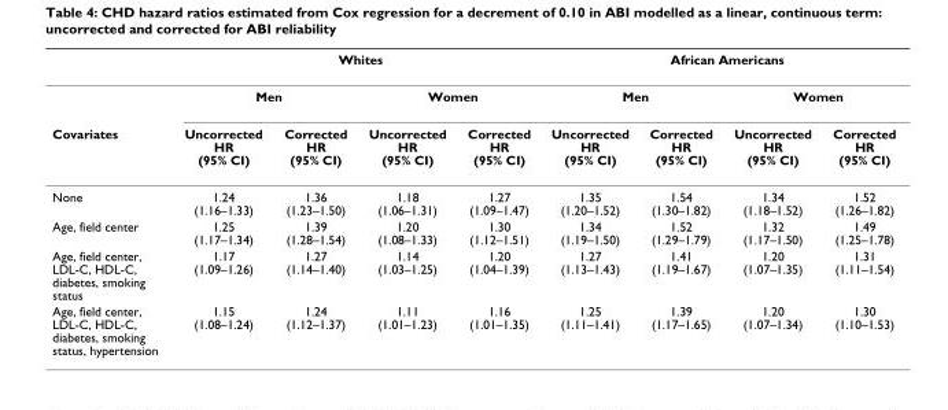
<table><thead><tr><td rowspan="3">Covariates</td><td colspan="4">Whites</td><td colspan="4">African Americans</td></tr><tr><td colspan="2">Men</td><td colspan="2">Women</td><td colspan="2">Men</td><td colspan="2">Women</td></tr><tr><td>Uncorrected HR (95% CI)</td><td>Corrected HR (95% CI)</td><td>Uncorrected HR (95% CI)</td><td>Corrected HR (95% CI)</td><td>Uncorrected HR (95% CI)</td><td>Corrected HR (95% CI)</td><td>Uncorrected HR (95% CI)</td><td>Corrected HR (95% CI)</td></tr></thead><tbody><tr><td>None</td><td>1.24 (1.16–1.33)</td><td>1.36 (1.23–1.50)</td><td>1.18 (1.06–1.31)</td><td>1.27 (1.09–1.47)</td><td>1.35 (1.20–1.52)</td><td>1.54 (1.30–1.82)</td><td>1.34 (1.18–1.52)</td><td>1.52 (1.26–1.82)</td></tr><tr><td>Age, field center</td><td>1.25 (1.17–1.34)</td><td>1.39 (1.28–1.54)</td><td>1.20 (1.08–1.33)</td><td>1.30 (1.12–1.51)</td><td>1.34 (1.19–1.50)</td><td>1.52 (1.29–1.79)</td><td>1.32 (1.17–1.50)</td><td>1.49 (1.25–1.78)</td></tr><tr><td>Age, field center, LDL-C, HDL-C, diabetes, smoking status</td><td>1.17 (1.09–1.26)</td><td>1.27 (1.14–1.40)</td><td>1.14 (1.03–1.25)</td><td>1.20 (1.04–1.39)</td><td>1.27 (1.13–1.43)</td><td>1.41 (1.19–1.67)</td><td>1.20 (1.07–1.35)</td><td>1.31 (1.11–1.54)</td></tr><tr><td>Age, field center, LDL-C, HDL-C, diabetes, smoking status, hypertension</td><td>1.15 (1.08–1.24)</td><td>1.24 (1.12–1.37)</td><td>1.11 (1.01–1.23)</td><td>1.16 (1.01–1.35)</td><td>1.25 (1.11–1.41)</td><td>1.39 (1.17–1.65)</td><td>1.20 (1.07–1.34)</td><td>1.30 (1.10–1.53)</td></tr></tbody></table>